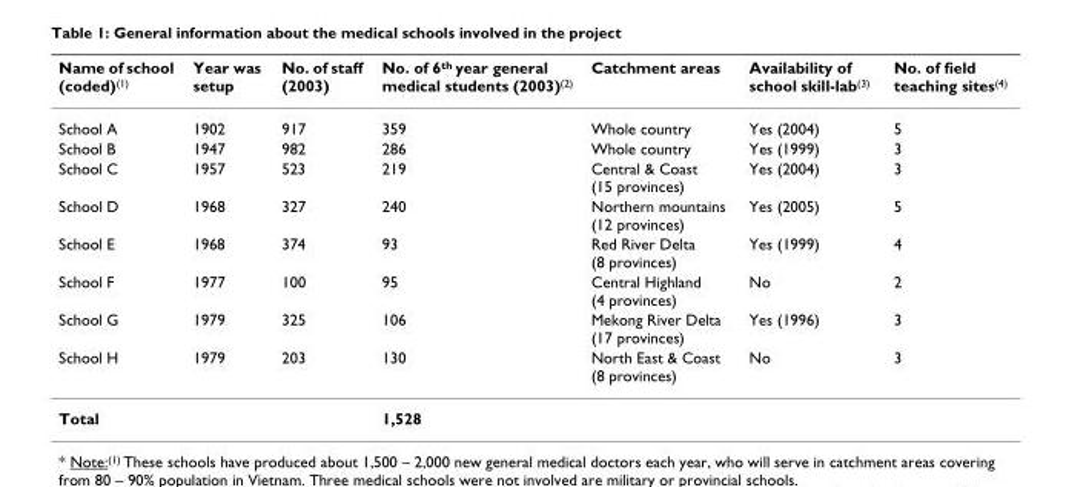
<table><thead><tr><td>Name of school (coded)<sup>(1)</sup></td><td>Year was setup</td><td>No. of staff (2003)</td><td>No. of 6<sup>th</sup> year general medical students (2003)<sup>(2)</sup></td><td>Catchment areas</td><td>Availability of school skill-lab<sup>(3)</sup></td><td>No. of field teaching sites<sup>(4)</sup></td></tr></thead><tbody><tr><td>School A</td><td>1902</td><td>917</td><td>359</td><td>Whole country</td><td>Yes (2004)</td><td>5</td></tr><tr><td>School B</td><td>1947</td><td>982</td><td>286</td><td>Whole country</td><td>Yes (1999)</td><td>3</td></tr><tr><td>School C</td><td>1957</td><td>523</td><td>219</td><td>Central &amp; Coast (15 provinces)</td><td>Yes (2004)</td><td>3</td></tr><tr><td>School D</td><td>1968</td><td>327</td><td>240</td><td>Northern mountains (12 provinces)</td><td>Yes (2005)</td><td>5</td></tr><tr><td>School E</td><td>1968</td><td>374</td><td>93</td><td>Red River Delta (8 provinces)</td><td>Yes (1999)</td><td>4</td></tr><tr><td>School F</td><td>1977</td><td>100</td><td>95</td><td>Central Highland (4 provinces)</td><td>No</td><td>2</td></tr><tr><td>School G</td><td>1979</td><td>325</td><td>106</td><td>Mekong River Delta (17 provinces)</td><td>Yes (1996)</td><td>3</td></tr><tr><td>School H</td><td>1979</td><td>203</td><td>130</td><td>North East &amp; Coast (8 provinces)</td><td>No</td><td>3</td></tr><tr><td>Total</td><td></td><td></td><td>1,528</td><td></td><td></td><td></td></tr></tbody></table>